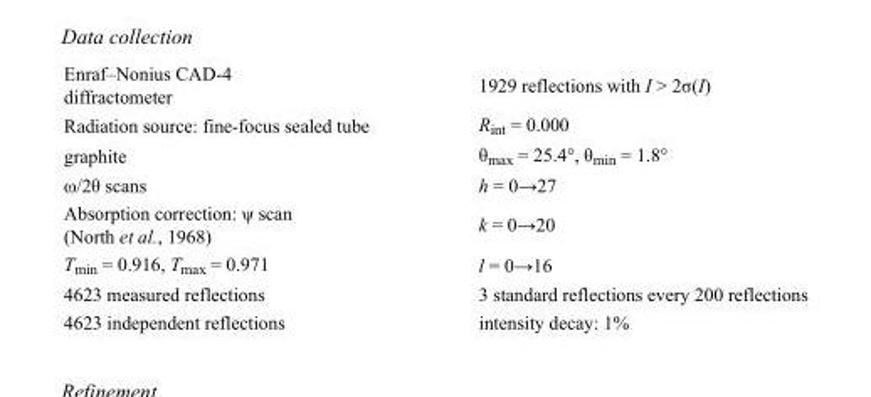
<table><tbody><tr><td>Enraf–Nonius CAD-4 diffractometer</td><td>1929 reflections with I &gt; 2σ(I)</td></tr><tr><td>Radiation source: fine-focus sealed tube</td><td>R<sub>int</sub> = 0.000</td></tr><tr><td>graphite</td><td>θ<sub>max</sub> = 25.4°, θ<sub>min</sub> = 1.8°</td></tr><tr><td>ω/2θ scans</td><td>h = 0→27</td></tr><tr><td>Absorption correction: ψ scan (North et al., 1968)</td><td>k = 0→20</td></tr><tr><td>T<sub>min</sub> = 0.916, T<sub>max</sub> = 0.971</td><td>l = 0→16</td></tr><tr><td>4623 measured reflections</td><td>3 standard reflections every 200 reflections</td></tr><tr><td>4623 independent reflections</td><td>intensity decay: 1%</td></tr></tbody></table>